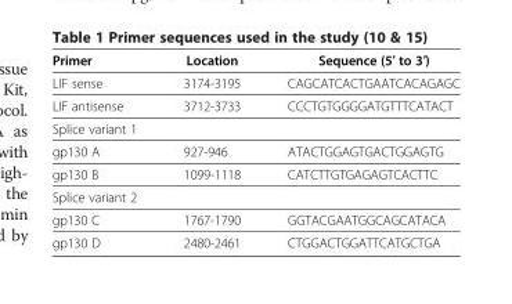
<table><thead><tr><td>Primer</td><td>Location</td><td>Sequence (5′ to 3′)</td></tr></thead><tbody><tr><td>LIF sense</td><td>3174-3195</td><td>CAGCATCACTGAATCACAGAGC</td></tr><tr><td>LIF antisense</td><td>3712-3733</td><td>CCCTGTGGGGATGTTTCATACT</td></tr><tr><td colspan="3">Splice variant 1</td></tr><tr><td>gp130 A</td><td>927-946</td><td>ATACTGGAGTGACTGGAGTG</td></tr><tr><td>gp130 B</td><td>1099-1118</td><td>CATCTTGTGAGAGTCACTTC</td></tr><tr><td colspan="3">Splice variant 2</td></tr><tr><td>gp130 C</td><td>1767-1790</td><td>GGTACGAATGGCAGCATACA</td></tr><tr><td>gp130 D</td><td>2480-2461</td><td>CTGGACTGGATTCATGCTGA</td></tr></tbody></table>